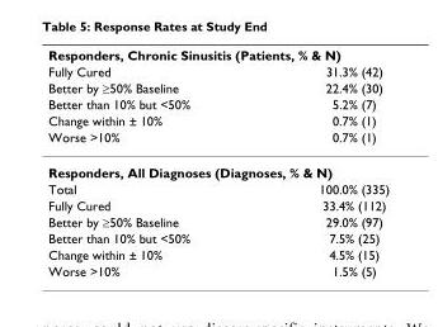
<table><thead><tr><td colspan="2">Responders, Chronic Sinusitis (Patients, % &amp; N)</td></tr><tr><td rowspan="5">Fully Cured Better by ≥50% Baseline Better than 10% but &lt;50% Change within ± 10% Worse &gt;10%</td><td rowspan="5">31.3% (42) 22.4% (30) 5.2% (7) 0.7% (1) 0.7% (1)</td></tr><tr></tr><tr></tr><tr></tr><tr></tr></thead><tbody><tr><td colspan="2">Responders, All Diagnoses (Diagnoses, % &amp; N)</td></tr><tr><td>Total</td><td>100.0% (335)</td></tr><tr><td>Fully Cured</td><td>33.4% (112)</td></tr><tr><td>Better by ≥50% Baseline</td><td>29.0% (97)</td></tr><tr><td>Better than 10% but &lt;50%</td><td>7.5% (25)</td></tr><tr><td>Change within ± 10%</td><td>4.5% (15)</td></tr><tr><td>Worse &gt;10%</td><td>1.5% (5)</td></tr></tbody></table>